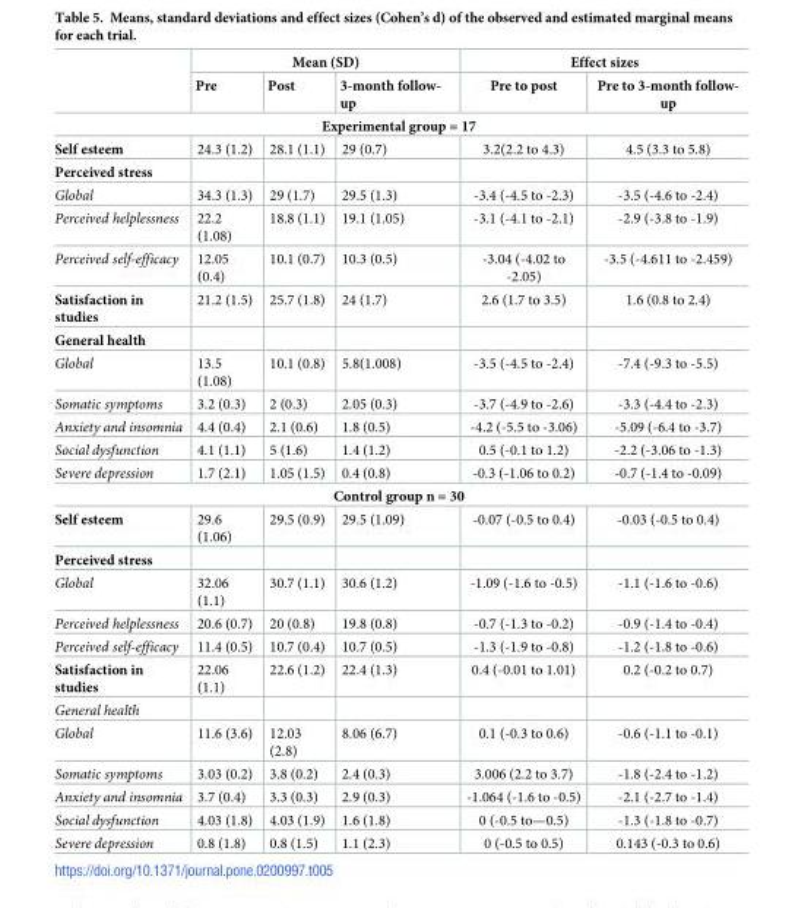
<table><thead><tr><td rowspan="2"></td><td colspan="3">Mean (SD)</td><td colspan="2">Effect sizes</td></tr><tr><td>Pre</td><td>Post</td><td>3-month follow- up</td><td>Pre to post</td><td>Pre to 3-month follow- up</td></tr></thead><tbody><tr><td colspan="6">Experimental group = 17</td></tr><tr><td>Self esteem</td><td>24.3 (1.2)</td><td>28.1 (1.1)</td><td>29 (0.7)</td><td>3.2(2.2 to 4.3)</td><td>4.5 (3.3 to 5.8)</td></tr><tr><td colspan="6">Perceived stress</td></tr><tr><td>Global</td><td>34.3 (1.3)</td><td>29 (1.7)</td><td>29.5 (1.3)</td><td>-3.4 (-4.5 to -2.3)</td><td>-3.5 (-4.6 to -2.4)</td></tr><tr><td>Perceived helplessness</td><td>22.2 (1.08)</td><td>18.8 (1.1)</td><td>19.1 (1.05)</td><td>-3.1 (-4.1 to -2.1)</td><td>-2.9 (-3.8 to -1.9)</td></tr><tr><td>Perceived self-efficacy</td><td>12.05 (0.4)</td><td>10.1 (0.7)</td><td>10.3 (0.5)</td><td>-3.04 (-4.02 to -2.05)</td><td>-3.5 (-4.611 to -2.459)</td></tr><tr><td>Satisfaction in studies</td><td>21.2 (1.5)</td><td>25.7 (1.8)</td><td>24 (1.7)</td><td>2.6 (1.7 to 3.5)</td><td>1.6 (0.8 to 2.4)</td></tr><tr><td colspan="6">General health</td></tr><tr><td>Global</td><td>13.5 (1.08)</td><td>10.1 (0.8)</td><td>5.8(1.008)</td><td>-3.5 (-4.5 to -2.4)</td><td>-7.4 (-9.3 to -5.5)</td></tr><tr><td>Somatic symptoms</td><td>3.2 (0.3)</td><td>2 (0.3)</td><td>2.05 (0.3)</td><td>-3.7 (-4.9 to -2.6)</td><td>-3.3 (-4.4 to -2.3)</td></tr><tr><td>Anxiety and insomnia</td><td>4.4 (0.4)</td><td>2.1 (0.6)</td><td>1.8 (0.5)</td><td>-4.2 (-5.5 to -3.06)</td><td>-5.09 (-6.4 to -3.7)</td></tr><tr><td>Social dysfunction</td><td>4.1 (1.1)</td><td>5 (1.6)</td><td>1.4 (1.2)</td><td>0.5 (-0.1 to 1.2)</td><td>-2.2 (-3.06 to -1.3)</td></tr><tr><td>Severe depression</td><td>1.7 (2.1)</td><td>1.05 (1.5)</td><td>0.4 (0.8)</td><td>-0.3 (-1.06 to 0.2)</td><td>-0.7 (-1.4 to -0.09)</td></tr><tr><td colspan="6">Control group n = 30</td></tr><tr><td>Self esteem</td><td>29.6 (1.06)</td><td>29.5 (0.9)</td><td>29.5 (1.09)</td><td>-0.07 (-0.5 to 0.4)</td><td>-0.03 (-0.5 to 0.4)</td></tr><tr><td colspan="6">Perceived stress</td></tr><tr><td>Global</td><td>32.06 (1.1)</td><td>30.7 (1.1)</td><td>30.6 (1.2)</td><td>-1.09 (-1.6 to -0.5)</td><td>-1.1 (-1.6 to -0.6)</td></tr><tr><td>Perceived helplessness</td><td>20.6 (0.7)</td><td>20 (0.8)</td><td>19.8 (0.8)</td><td>-0.7 (-1.3 to -0.2)</td><td>-0.9 (-1.4 to -0.4)</td></tr><tr><td>Perceived self-efficacy</td><td>11.4 (0.5)</td><td>10.7 (0.4)</td><td>10.7 (0.5)</td><td>-1.3 (-1.9 to -0.8)</td><td>-1.2 (-1.8 to -0.6)</td></tr><tr><td>Satisfaction in studies</td><td>22.06 (1.1)</td><td>22.6 (1.2)</td><td>22.4 (1.3)</td><td>0.4 (-0.01 to 1.01)</td><td>0.2 (-0.2 to 0.7)</td></tr><tr><td colspan="6">General health</td></tr><tr><td>Global</td><td>11.6 (3.6)</td><td>12.03 (2.8)</td><td>8.06 (6.7)</td><td>0.1 (-0.3 to 0.6)</td><td>-0.6 (-1.1 to -0.1)</td></tr><tr><td>Somatic symptoms</td><td>3.03 (0.2)</td><td>3.8 (0.2)</td><td>2.4 (0.3)</td><td>3.006 (2.2 to 3.7)</td><td>-1.8 (-2.4 to -1.2)</td></tr><tr><td>Anxiety and insomnia</td><td>3.7 (0.4)</td><td>3.3 (0.3)</td><td>2.9 (0.3)</td><td>-1.064 (-1.6 to -0.5)</td><td>-2.1 (-2.7 to -1.4)</td></tr><tr><td>Social dysfunction</td><td>4.03 (1.8)</td><td>4.03 (1.9)</td><td>1.6 (1.8)</td><td>0 (-0.5 to—0.5)</td><td>-1.3 (-1.8 to -0.7)</td></tr><tr><td>Severe depression</td><td>0.8 (1.8)</td><td>0.8 (1.5)</td><td>1.1 (2.3)</td><td>0 (-0.5 to 0.5)</td><td>0.143 (-0.3 to 0.6)</td></tr></tbody></table>